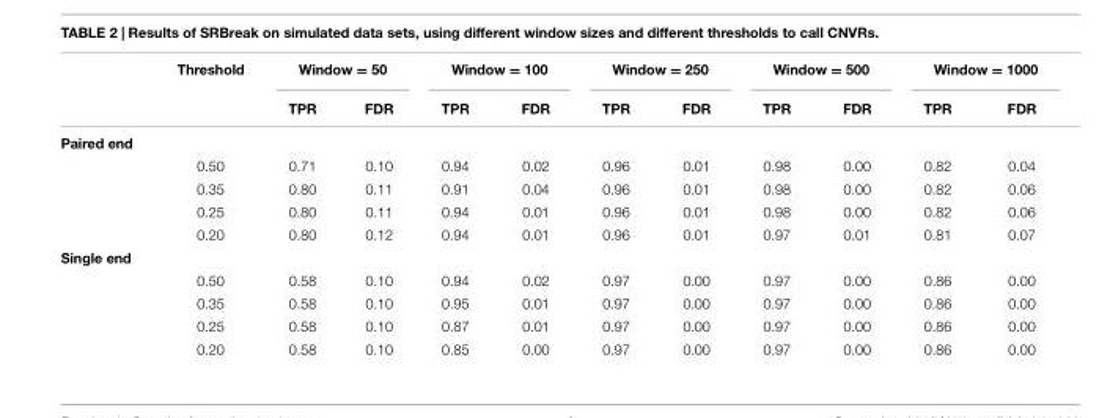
<table><thead><tr><td rowspan="2"></td><td rowspan="2">Threshold</td><td colspan="2">Window = 50</td><td colspan="2">Window = 100</td><td colspan="2">Window = 250</td><td colspan="2">Window = 500</td><td colspan="2">Window = 1000</td></tr><tr><td>TPR</td><td>FDR</td><td>TPR</td><td>FDR</td><td>TPR</td><td>FDR</td><td>TPR</td><td>FDR</td><td>TPR</td><td>FDR</td></tr></thead><tbody><tr><td colspan="12">Paired end</td></tr><tr><td></td><td>0.50</td><td>0.71</td><td>0.10</td><td>0.94</td><td>0.02</td><td>0.96</td><td>0.01</td><td>0.98</td><td>0.00</td><td>0.82</td><td>0.04</td></tr><tr><td></td><td>0.35</td><td>0.80</td><td>0.11</td><td>0.91</td><td>0.04</td><td>0.96</td><td>0.01</td><td>0.98</td><td>0.00</td><td>0.82</td><td>0.06</td></tr><tr><td></td><td>0.25</td><td>0.80</td><td>0.11</td><td>0.94</td><td>0.01</td><td>0.96</td><td>0.01</td><td>0.98</td><td>0.00</td><td>0.82</td><td>0.06</td></tr><tr><td></td><td>0.20</td><td>0.80</td><td>0.12</td><td>0.94</td><td>0.01</td><td>0.96</td><td>0.01</td><td>0.97</td><td>0.01</td><td>0.81</td><td>0.07</td></tr><tr><td colspan="12">Single end</td></tr><tr><td></td><td>0.50</td><td>0.58</td><td>0.10</td><td>0.94</td><td>0.02</td><td>0.97</td><td>0.00</td><td>0.97</td><td>0.00</td><td>0.86</td><td>0.00</td></tr><tr><td></td><td>0.35</td><td>0.58</td><td>0.10</td><td>0.95</td><td>0.01</td><td>0.97</td><td>0.00</td><td>0.97</td><td>0.00</td><td>0.86</td><td>0.00</td></tr><tr><td></td><td>0.25</td><td>0.58</td><td>0.10</td><td>0.87</td><td>0.01</td><td>0.97</td><td>0.00</td><td>0.97</td><td>0.00</td><td>0.86</td><td>0.00</td></tr><tr><td></td><td>0.20</td><td>0.58</td><td>0.10</td><td>0.85</td><td>0.00</td><td>0.97</td><td>0.00</td><td>0.97</td><td>0.00</td><td>0.86</td><td>0.00</td></tr></tbody></table>